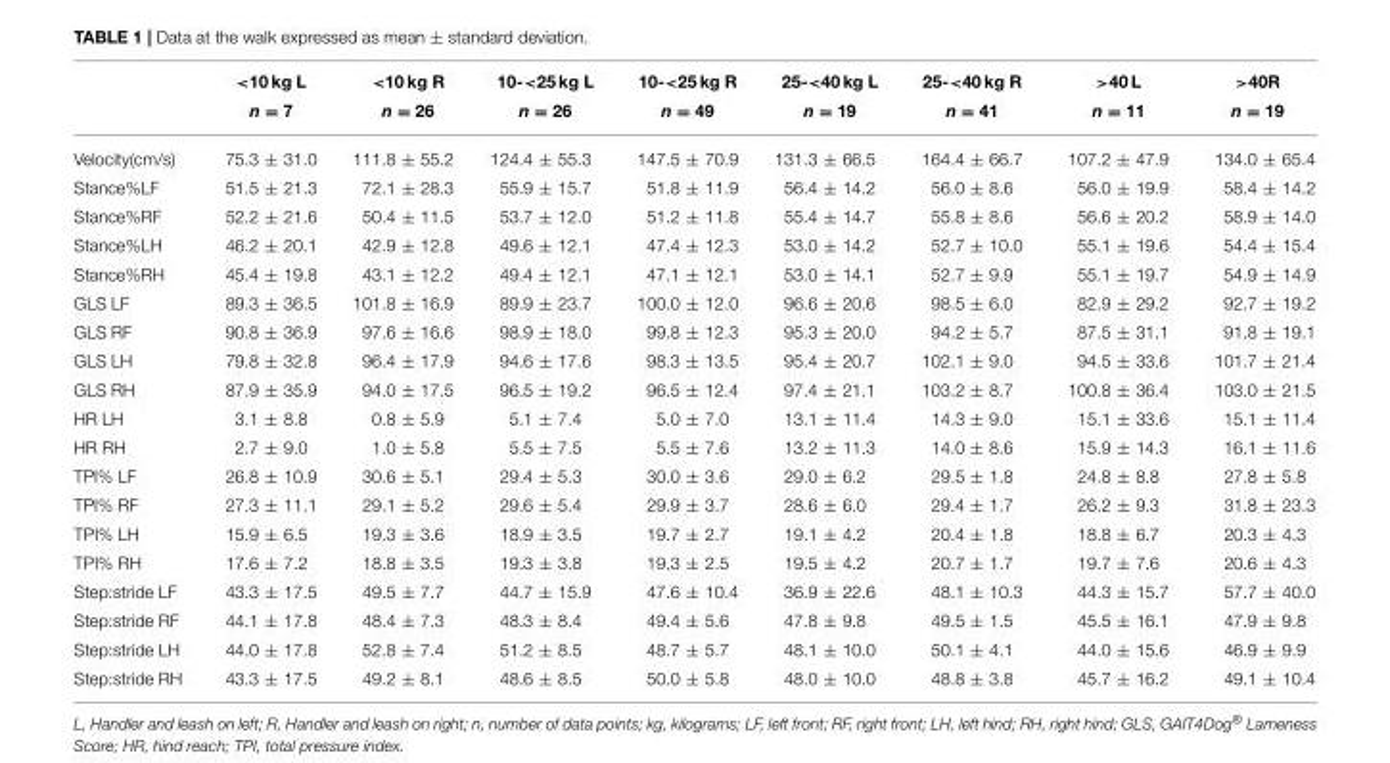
<table><thead><tr><td rowspan="2"></td><td rowspan="2">&lt;10 kg L n = 7</td><td rowspan="2">&lt;10 kg R n = 26</td><td rowspan="2">10-&lt;25 kg L n = 26</td><td rowspan="2">10-&lt;25 kg R n = 49</td><td rowspan="2">25-&lt;40 kg L n = 19</td><td rowspan="2">25-&lt;40 kg R n = 41</td><td rowspan="2">&gt;40 L n = 11</td><td rowspan="2">&gt;40R n = 19</td></tr><tr></tr></thead><tbody><tr><td>Velocity(cm/s)</td><td>75.3 ± 31.0</td><td>111.8 ± 55.2</td><td>124.4 ± 55.3</td><td>147.5 ± 70.9</td><td>131.3 ± 66.5</td><td>164.4 ± 66.7</td><td>107.2 ± 47.9</td><td>134.0 ± 65.4</td></tr><tr><td>Stance%LF</td><td>51.5 ± 21.3</td><td>72.1 ± 28.3</td><td>55.9 ± 15.7</td><td>51.8 ± 11.9</td><td>56.4 ± 14.2</td><td>56.0 ± 8.6</td><td>56.0 ± 19.9</td><td>58.4 ± 14.2</td></tr><tr><td>Stance%RF</td><td>52.2 ± 21.6</td><td>50.4 ± 11.5</td><td>53.7 ± 12.0</td><td>51.2 ± 11.8</td><td>55.4 ± 14.7</td><td>55.8 ± 8.6</td><td>56.6 ± 20.2</td><td>58.9 ± 14.0</td></tr><tr><td>Stance%LH</td><td>46.2 ± 20.1</td><td>42.9 ± 12.8</td><td>49.6 ± 12.1</td><td>47.4 ± 12.3</td><td>53.0 ± 14.2</td><td>52.7 ± 10.0</td><td>55.1 ± 19.6</td><td>54.4 ± 15.4</td></tr><tr><td>Stance%RH</td><td>45.4 ± 19.8</td><td>43.1 ± 12.2</td><td>49.4 ± 12.1</td><td>47.1 ± 12.1</td><td>53.0 ± 14.1</td><td>52.7 ± 9.9</td><td>55.1 ± 19.7</td><td>54.9 ± 14.9</td></tr><tr><td>GLS LF</td><td>89.3 ± 36.5</td><td>101.8 ± 16.9</td><td>89.9 ± 23.7</td><td>100.0 ± 12.0</td><td>96.6 ± 20.6</td><td>98.5 ± 6.0</td><td>82.9 ± 29.2</td><td>92.7 ± 19.2</td></tr><tr><td>GLS RF</td><td>90.8 ± 36.9</td><td>97.6 ± 16.6</td><td>98.9 ± 18.0</td><td>99.8 ± 12.3</td><td>95.3 ± 20.0</td><td>94.2 ± 5.7</td><td>87.5 ± 31.1</td><td>91.8 ± 19.1</td></tr><tr><td>GLS LH</td><td>79.8 ± 32.8</td><td>96.4 ± 17.9</td><td>94.6 ± 17.6</td><td>98.3 ± 13.5</td><td>95.4 ± 20.7</td><td>102.1 ± 9.0</td><td>94.5 ± 33.6</td><td>101.7 ± 21.4</td></tr><tr><td>GLS RH</td><td>87.9 ± 35.9</td><td>94.0 ± 17.5</td><td>96.5 ± 19.2</td><td>96.5 ± 12.4</td><td>97.4 ± 21.1</td><td>103.2 ± 8.7</td><td>100.8 ± 36.4</td><td>103.0 ± 21.5</td></tr><tr><td>HR LH</td><td>3.1 ± 8.8</td><td>0.8 ± 5.9</td><td>5.1 ± 7.4</td><td>5.0 ± 7.0</td><td>13.1 ± 11.4</td><td>14.3 ± 9.0</td><td>15.1 ± 33.6</td><td>15.1 ± 11.4</td></tr><tr><td>HR RH</td><td>2.7 ± 9.0</td><td>1.0 ± 5.8</td><td>5.5 ± 7.5</td><td>5.5 ± 7.6</td><td>13.2 ± 11.3</td><td>14.0 ± 8.6</td><td>15.9 ± 14.3</td><td>16.1 ± 11.6</td></tr><tr><td>TPI% LF</td><td>26.8 ± 10.9</td><td>30.6 ± 5.1</td><td>29.4 ± 5.3</td><td>30.0 ± 3.6</td><td>29.0 ± 6.2</td><td>29.5 ± 1.8</td><td>24.8 ± 8.8</td><td>27.8 ± 5.8</td></tr><tr><td>TPI% RF</td><td>27.3 ± 11.1</td><td>29.1 ± 5.2</td><td>29.6 ± 5.4</td><td>29.9 ± 3.7</td><td>28.6 ± 6.0</td><td>29.4 ± 1.7</td><td>26.2 ± 9.3</td><td>31.8 ± 23.3</td></tr><tr><td>TPI% LH</td><td>15.9 ± 6.5</td><td>19.3 ± 3.6</td><td>18.9 ± 3.5</td><td>19.7 ± 2.7</td><td>19.1 ± 4.2</td><td>20.4 ± 1.8</td><td>18.8 ± 6.7</td><td>20.3 ± 4.3</td></tr><tr><td>TPI% RH</td><td>17.6 ± 7.2</td><td>18.8 ± 3.5</td><td>19.3 ± 3.8</td><td>19.3 ± 2.5</td><td>19.5 ± 4.2</td><td>20.7 ± 1.7</td><td>19.7 ± 7.6</td><td>20.6 ± 4.3</td></tr><tr><td>Step:stride LF</td><td>43.3 ± 17.5</td><td>49.5 ± 7.7</td><td>44.7 ± 15.9</td><td>47.6 ± 10.4</td><td>36.9 ± 22.6</td><td>48.1 ± 10.3</td><td>44.3 ± 15.7</td><td>57.7 ± 40.0</td></tr><tr><td>Step:stride RF</td><td>44.1 ± 17.8</td><td>48.4 ± 7.3</td><td>48.3 ± 8.4</td><td>49.4 ± 5.6</td><td>47.8 ± 9.8</td><td>49.5 ± 1.5</td><td>45.5 ± 16.1</td><td>47.9 ± 9.8</td></tr><tr><td>Step:stride LH</td><td>44.0 ± 17.8</td><td>52.8 ± 7.4</td><td>51.2 ± 8.5</td><td>48.7 ± 5.7</td><td>48.1 ± 10.0</td><td>50.1 ± 4.1</td><td>44.0 ± 15.6</td><td>46.9 ± 9.9</td></tr><tr><td>Step:stride RH</td><td>43.3 ± 17.5</td><td>49.2 ± 8.1</td><td>48.6 ± 8.5</td><td>50.0 ± 5.8</td><td>48.0 ± 10.0</td><td>48.8 ± 3.8</td><td>45.7 ± 16.2</td><td>49.1 ± 10.4</td></tr></tbody></table>